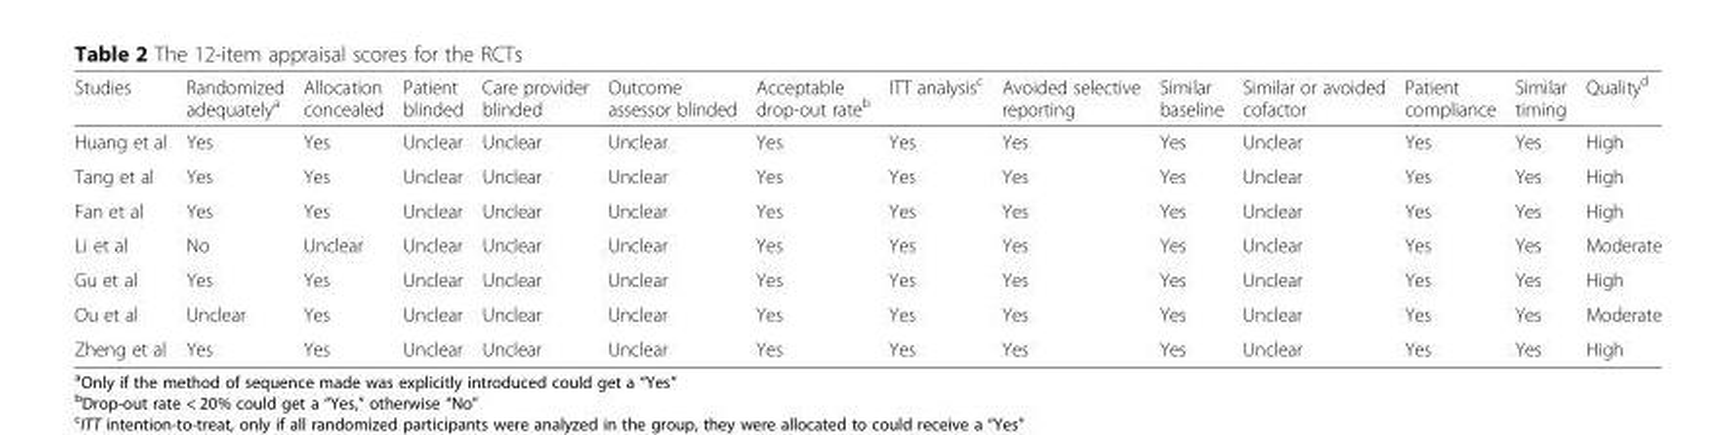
<table><thead><tr><td>Studies</td><td>Randomized adequately<sup>a</sup></td><td>Allocation concealed</td><td>Patient blinded</td><td>Care provider blinded</td><td>Outcome assessor blinded</td><td>Acceptable drop-out rate<sup>b</sup></td><td>ITT analysis<sup>c</sup></td><td>Avoided selective reporting</td><td>Similar baseline</td><td>Similar or avoided cofactor</td><td>Patient compliance</td><td>Similar timing</td><td>Quality<sup>d</sup></td></tr></thead><tbody><tr><td>Huang et al</td><td>Yes</td><td>Yes</td><td>Unclear</td><td>Unclear</td><td>Unclear</td><td>Yes</td><td>Yes</td><td>Yes</td><td>Yes</td><td>Unclear</td><td>Yes</td><td>Yes</td><td>High</td></tr><tr><td>Tang et al</td><td>Yes</td><td>Yes</td><td>Unclear</td><td>Unclear</td><td>Unclear</td><td>Yes</td><td>Yes</td><td>Yes</td><td>Yes</td><td>Unclear</td><td>Yes</td><td>Yes</td><td>High</td></tr><tr><td>Fan et al</td><td>Yes</td><td>Yes</td><td>Unclear</td><td>Unclear</td><td>Unclear</td><td>Yes</td><td>Yes</td><td>Yes</td><td>Yes</td><td>Unclear</td><td>Yes</td><td>Yes</td><td>High</td></tr><tr><td>Li et al</td><td>No</td><td>Unclear</td><td>Unclear</td><td>Unclear</td><td>Unclear</td><td>Yes</td><td>Yes</td><td>Yes</td><td>Yes</td><td>Unclear</td><td>Yes</td><td>Yes</td><td>Moderate</td></tr><tr><td>Gu et al</td><td>Yes</td><td>Yes</td><td>Unclear</td><td>Unclear</td><td>Unclear</td><td>Yes</td><td>Yes</td><td>Yes</td><td>Yes</td><td>Unclear</td><td>Yes</td><td>Yes</td><td>High</td></tr><tr><td>Ou et al</td><td>Unclear</td><td>Yes</td><td>Unclear</td><td>Unclear</td><td>Unclear</td><td>Yes</td><td>Yes</td><td>Yes</td><td>Yes</td><td>Unclear</td><td>Yes</td><td>Yes</td><td>Moderate</td></tr><tr><td>Zheng et al</td><td>Yes</td><td>Yes</td><td>Unclear</td><td>Unclear</td><td>Unclear</td><td>Yes</td><td>Yes</td><td>Yes</td><td>Yes</td><td>Unclear</td><td>Yes</td><td>Yes</td><td>High</td></tr></tbody></table>